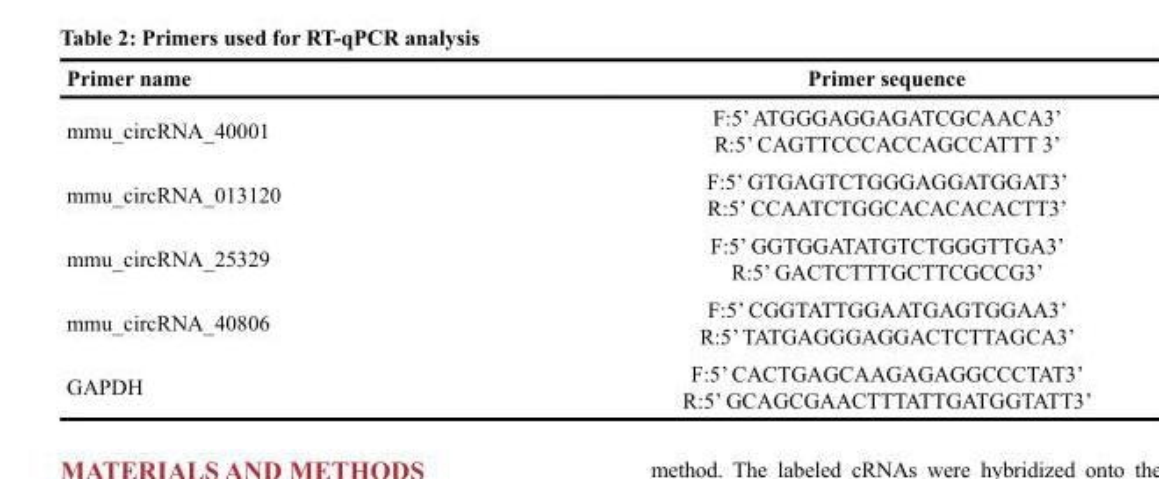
<table><thead><tr><td>Primer name</td><td>Primer sequence</td></tr></thead><tbody><tr><td>mmu_circRNA_40001</td><td>F:5’ ATGGGAGGAGATCGCAACA3’ R:5’ CAGTTCCCACCAGCCATTT 3’</td></tr><tr><td>mmu_circRNA_013120</td><td>F:5’ GTGAGTCTGGGAGGATGGAT3’ R:5’ CCAATCTGGCACACACACTT3’</td></tr><tr><td>mmu_circRNA_25329</td><td>F:5’ GGTGGATATGTCTGGGTTGA3’ R:5’ GACTCTTTGCTTCGCCG3’</td></tr><tr><td>mmu_circRNA_40806</td><td>F:5’ CGGTATTGGAATGAGTGGAA3’ R:5’ TATGAGGGAGGACTCTTAGCA3’</td></tr><tr><td>GAPDH</td><td>F:5’ CACTGAGCAAGAGAGGCCCTAT3’ R:5’ GCAGCGAACTTTATTGATGGTATT3’</td></tr></tbody></table>